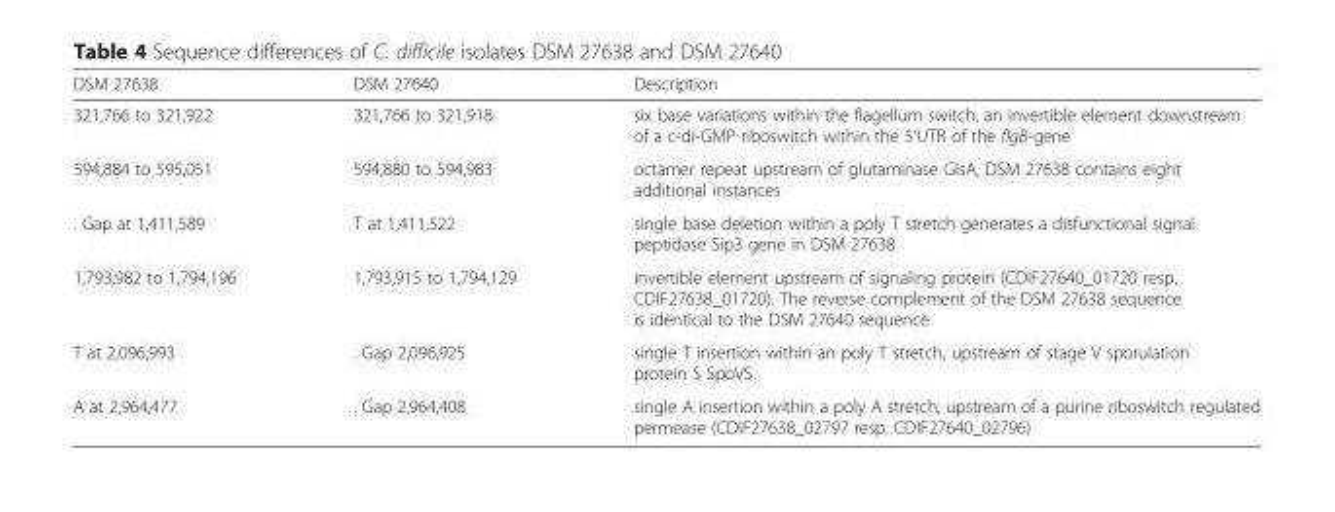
<table><thead><tr><td>DSM 27638</td><td>DSM 27640</td><td>Description</td></tr></thead><tbody><tr><td>321,766 to 321,922</td><td>321,766 to 321,918</td><td>six base variations within the flagellum switch, an invertible element downstream of a c-di-GMP riboswitch within the 5’UTR of the flgB-gene</td></tr><tr><td>594,884 to 595,051</td><td>594,880 to 594,983</td><td>octamer repeat upstream of glutaminase GlsA, DSM 27638 contains eight additional instances</td></tr><tr><td>. Gap at 1,411,589</td><td>T at 1,411,522</td><td>single base deletion within a poly T stretch generates a disfunctional signal peptidase Sip3 gene in DSM 27638</td></tr><tr><td>1,793,982 to 1,794,196</td><td>1,793,915 to 1,794,129</td><td>invertible element upstream of signaling protein (CDIF27640_01720 resp. CDIF27638_01720). The reverse complement of the DSM 27638 sequence is identical to the DSM 27640 sequence</td></tr><tr><td>T at 2,096,993</td><td>. Gap 2,096,925</td><td>single T insertion within an poly T stretch, upstream of stage V sporulation protein S SpoVS</td></tr><tr><td>A at 2,964,477</td><td>. Gap 2,964,408</td><td>single A insertion within a poly A stretch, upstream of a purine riboswitch regulated permease (CDIF27638_02797 resp. CDIF27640_02796)</td></tr></tbody></table>